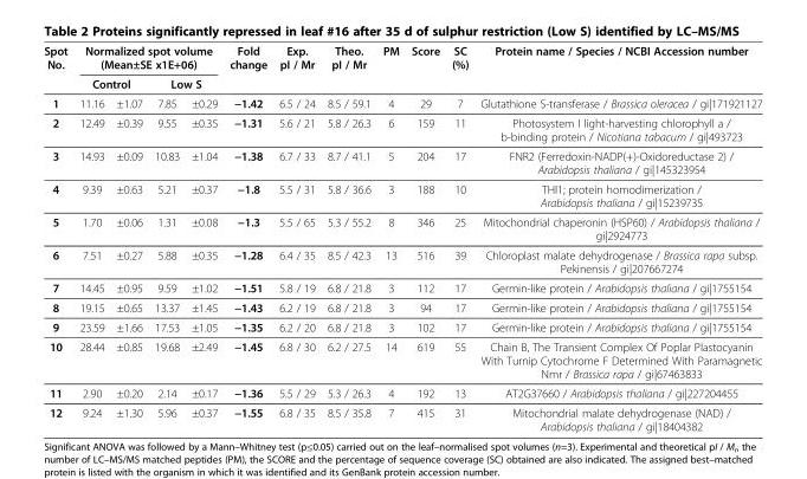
<table><thead><tr><td rowspan="3">Spot No. 1</td><td colspan="4">Normalized spot volume (Mean±SE x1E+06)</td><td rowspan="3">Fold change −1.42</td><td rowspan="3">Exp. pI / Mr 6.5 / 24</td><td rowspan="3">Theo. pI / Mr 8.5 / 59.1</td><td rowspan="3">PM 4</td><td rowspan="3">Score 29</td><td rowspan="3">SC (%) 7</td><td rowspan="3">Protein name / Species / NCBI Accession number Glutathione S-transferase / Brassica oleracea / gi|171921127</td></tr><tr><td colspan="2">Control</td><td colspan="2">Low S</td></tr><tr><td>11.16</td><td>±1.07</td><td>7.85</td><td>±0.29</td></tr></thead><tbody><tr><td>2</td><td>12.49</td><td>±0.39</td><td>9.55</td><td>±0.35</td><td>−1.31</td><td>5.6 / 21</td><td>5.8 / 26.3</td><td>6</td><td>159</td><td>11</td><td>Photosystem I light-harvesting chlorophyll a / b-binding protein / Nicotiana tabacum / gi|493723</td></tr><tr><td>3</td><td>14.93</td><td>±0.09</td><td>10.83</td><td>±1.04</td><td>−1.38</td><td>6.7 / 33</td><td>8.7 / 41.1</td><td>5</td><td>204</td><td>17</td><td>FNR2 (Ferredoxin-NADP(+)-Oxidoreductase 2) / Arabidopsis thaliana / gi|145323954</td></tr><tr><td>4</td><td>9.39</td><td>±0.63</td><td>5.21</td><td>±0.37</td><td>−1.8</td><td>5.5 / 31</td><td>5.8 / 36.6</td><td>3</td><td>188</td><td>10</td><td>THI1; protein homodimerization / Arabidopsis thaliana / gi|15239735</td></tr><tr><td>5</td><td>1.70</td><td>±0.06</td><td>1.31</td><td>±0.08</td><td>−1.3</td><td>5.5 / 65</td><td>5.3 / 55.2</td><td>8</td><td>346</td><td>25</td><td>Mitochondrial chaperonin (HSP60) / Arabidopsis thaliana / gi|2924773</td></tr><tr><td>6</td><td>7.51</td><td>±0.27</td><td>5.88</td><td>±0.35</td><td>−1.28</td><td>6.4 / 35</td><td>8.5 / 42.3</td><td>13</td><td>516</td><td>39</td><td>Chloroplast malate dehydrogenase / Brassica rapa subsp. Pekinensis / gi|207667274</td></tr><tr><td>7</td><td>14.45</td><td>±0.95</td><td>9.59</td><td>±1.02</td><td>−1.51</td><td>5.8 / 19</td><td>6.8 / 21.8</td><td>3</td><td>112</td><td>17</td><td>Germin-like protein / Arabidopsis thaliana / gi|1755154</td></tr><tr><td>8</td><td>19.15</td><td>±0.65</td><td>13.37</td><td>±1.45</td><td>−1.43</td><td>6.2 / 19</td><td>6.8 / 21.8</td><td>3</td><td>94</td><td>17</td><td>Germin-like protein / Arabidopsis thaliana / gi|1755154</td></tr><tr><td>9</td><td>23.59</td><td>±1.66</td><td>17.53</td><td>±1.05</td><td>−1.35</td><td>6.2 / 20</td><td>6.8 / 21.8</td><td>3</td><td>102</td><td>17</td><td>Germin-like protein / Arabidopsis thaliana / gi|1755154</td></tr><tr><td>10</td><td>28.44</td><td>±0.85</td><td>19.68</td><td>±2.49</td><td>−1.45</td><td>6.8 / 30</td><td>6.2 / 27.5</td><td>14</td><td>619</td><td>55</td><td>Chain B, The Transient Complex Of Poplar Plastocyanin With Turnip Cytochrome F Determined With Paramagnetic Nmr / Brassica rapa / gi|67463833</td></tr><tr><td>11</td><td>2.90</td><td>±0.20</td><td>2.14</td><td>±0.17</td><td>−1.36</td><td>5.5 / 29</td><td>5.3 / 26.3</td><td>4</td><td>192</td><td>13</td><td>AT2G37660 / Arabidopsis thaliana / gi|227204455</td></tr><tr><td>12</td><td>9.24</td><td>±1.30</td><td>5.96</td><td>±0.37</td><td>−1.55</td><td>6.8 / 35</td><td>8.5 / 35.8</td><td>7</td><td>415</td><td>31</td><td>Mitochondrial malate dehydrogenase (NAD) / Arabidopsis thaliana / gi|18404382</td></tr></tbody></table>